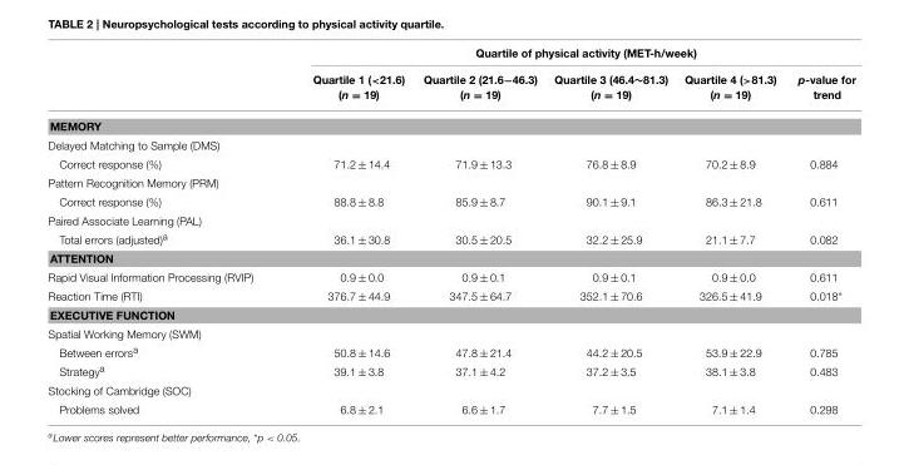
<table><thead><tr><td rowspan="2"></td><td colspan="5">Quartile of physical activity (MET-h/week)</td></tr><tr><td>Quartile 1 (&lt;21.6) (n = 19)</td><td>Quartile 2 (21.6−46.3) (n = 19)</td><td>Quartile 3 (46.4∼81.3) (n = 19)</td><td>Quartile 4 (&gt;81.3) (n = 19)</td><td>p-value for trend</td></tr></thead><tbody><tr><td colspan="6">MEMORY</td></tr><tr><td colspan="6">Delayed Matching to Sample (DMS)</td></tr><tr><td>Correct response (%)</td><td>71.2 ± 14.4</td><td>71.9 ± 13.3</td><td>76.8 ± 8.9</td><td>70.2 ± 8.9</td><td>0.884</td></tr><tr><td colspan="6">Pattern Recognition Memory (PRM)</td></tr><tr><td>Correct response (%)</td><td>88.8 ± 8.8</td><td>85.9 ± 8.7</td><td>90.1 ± 9.1</td><td>86.3 ± 21.8</td><td>0.611</td></tr><tr><td colspan="6">Paired Associate Learning (PAL)</td></tr><tr><td>Total errors (adjusted)<sup>a</sup></td><td>36.1 ± 30.8</td><td>30.5 ± 20.5</td><td>32.2 ± 25.9</td><td>21.1 ± 7.7</td><td>0.082</td></tr><tr><td colspan="6">ATTENTION</td></tr><tr><td>Rapid Visual Information Processing (RVIP)</td><td>0.9 ± 0.0</td><td>0.9 ± 0.1</td><td>0.9 ± 0.1</td><td>0.9 ± 0.0</td><td>0.611</td></tr><tr><td>Reaction Time (RTI)</td><td>376.7 ± 44.9</td><td>347.5 ± 64.7</td><td>352.1 ± 70.6</td><td>326.5 ± 41.9</td><td>0.018*</td></tr><tr><td colspan="6">EXECUTIVE FUNCTION</td></tr><tr><td colspan="6">Spatial Working Memory (SWM)</td></tr><tr><td>Between errors<sup>a</sup></td><td>50.8 ± 14.6</td><td>47.8 ± 21.4</td><td>44.2 ± 20.5</td><td>53.9 ± 22.9</td><td>0.785</td></tr><tr><td>Strategy<sup>a</sup></td><td>39.1 ± 3.8</td><td>37.1 ± 4.2</td><td>37.2 ± 3.5</td><td>38.1 ± 3.8</td><td>0.483</td></tr><tr><td colspan="6">Stocking of Cambridge (SOC)</td></tr><tr><td>Problems solved</td><td>6.8 ± 2.1</td><td>6.6 ± 1.7</td><td>7.7 ± 1.5</td><td>7.1 ± 1.4</td><td>0.298</td></tr></tbody></table>